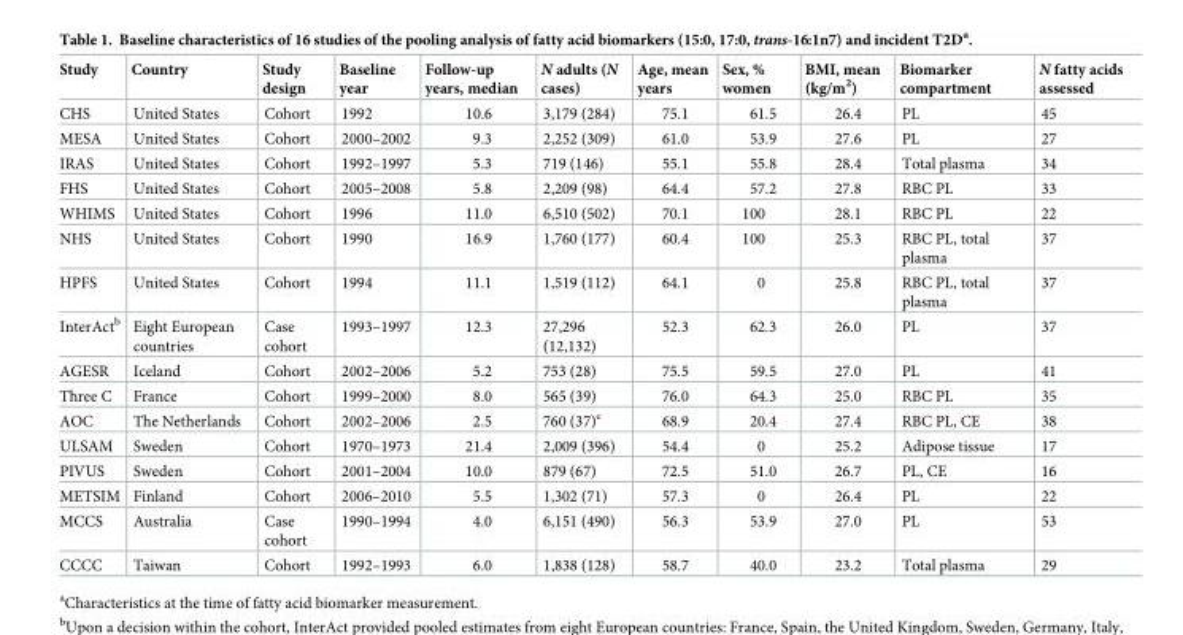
<table><thead><tr><td>Study</td><td>Country</td><td>Study design</td><td>Baseline year</td><td>Follow-up years, median</td><td>N adults (N cases)</td><td>Age, mean years</td><td>Sex, % women</td><td>BMI, mean (kg/m<sup>2</sup>)</td><td>Biomarker compartment</td><td>N fatty acids assessed</td></tr></thead><tbody><tr><td>CHS</td><td>United States</td><td>Cohort</td><td>1992</td><td>10.6</td><td>3,179 (284)</td><td>75.1</td><td>61.5</td><td>26.4</td><td>PL</td><td>45</td></tr><tr><td>MESA</td><td>United States</td><td>Cohort</td><td>2000–2002</td><td>9.3</td><td>2,252 (309)</td><td>61.0</td><td>53.9</td><td>27.6</td><td>PL</td><td>27</td></tr><tr><td>IRAS</td><td>United States</td><td>Cohort</td><td>1992–1997</td><td>5.3</td><td>719 (146)</td><td>55.1</td><td>55.8</td><td>28.4</td><td>Total plasma</td><td>34</td></tr><tr><td>FHS</td><td>United States</td><td>Cohort</td><td>2005–2008</td><td>5.8</td><td>2,209 (98)</td><td>64.4</td><td>57.2</td><td>27.8</td><td>RBC PL</td><td>33</td></tr><tr><td>WHIMS</td><td>United States</td><td>Cohort</td><td>1996</td><td>11.0</td><td>6,510 (502)</td><td>70.1</td><td>100</td><td>28.1</td><td>RBC PL</td><td>22</td></tr><tr><td>NHS</td><td>United States</td><td>Cohort</td><td>1990</td><td>16.9</td><td>1,760 (177)</td><td>60.4</td><td>100</td><td>25.3</td><td>RBC PL, total plasma</td><td>37</td></tr><tr><td>HPFS</td><td>United States</td><td>Cohort</td><td>1994</td><td>11.1</td><td>1,519 (112)</td><td>64.1</td><td>0</td><td>25.8</td><td>RBC PL, total plasma</td><td>37</td></tr><tr><td>InterAct<sup>b</sup></td><td>Eight European countries</td><td>Case cohort</td><td>1993–1997</td><td>12.3</td><td>27,296 (12,132)</td><td>52.3</td><td>62.3</td><td>26.0</td><td>PL</td><td>37</td></tr><tr><td>AGESR</td><td>Iceland</td><td>Cohort</td><td>2002–2006</td><td>5.2</td><td>753 (28)</td><td>75.5</td><td>59.5</td><td>27.0</td><td>PL</td><td>41</td></tr><tr><td>Three C</td><td>France</td><td>Cohort</td><td>1999–2000</td><td>8.0</td><td>565 (39)</td><td>76.0</td><td>64.3</td><td>25.0</td><td>RBC PL</td><td>35</td></tr><tr><td>AOC</td><td>The Netherlands</td><td>Cohort</td><td>2002–2006</td><td>2.5</td><td>760 (37)<sup>c</sup></td><td>68.9</td><td>20.4</td><td>27.4</td><td>RBC PL, CE</td><td>38</td></tr><tr><td>ULSAM</td><td>Sweden</td><td>Cohort</td><td>1970–1973</td><td>21.4</td><td>2,009 (396)</td><td>54.4</td><td>0</td><td>25.2</td><td>Adipose tissue</td><td>17</td></tr><tr><td>PIVUS</td><td>Sweden</td><td>Cohort</td><td>2001–2004</td><td>10.0</td><td>879 (67)</td><td>72.5</td><td>51.0</td><td>26.7</td><td>PL, CE</td><td>16</td></tr><tr><td>METSIM</td><td>Finland</td><td>Cohort</td><td>2006–2010</td><td>5.5</td><td>1,302 (71)</td><td>57.3</td><td>0</td><td>26.4</td><td>PL</td><td>22</td></tr><tr><td>MCCS</td><td>Australia</td><td>Case cohort</td><td>1990–1994</td><td>4.0</td><td>6,151 (490)</td><td>56.3</td><td>53.9</td><td>27.0</td><td>PL</td><td>53</td></tr><tr><td>CCCC</td><td>Taiwan</td><td>Cohort</td><td>1992–1993</td><td>6.0</td><td>1,838 (128)</td><td>58.7</td><td>40.0</td><td>23.2</td><td>Total plasma</td><td>29</td></tr></tbody></table>